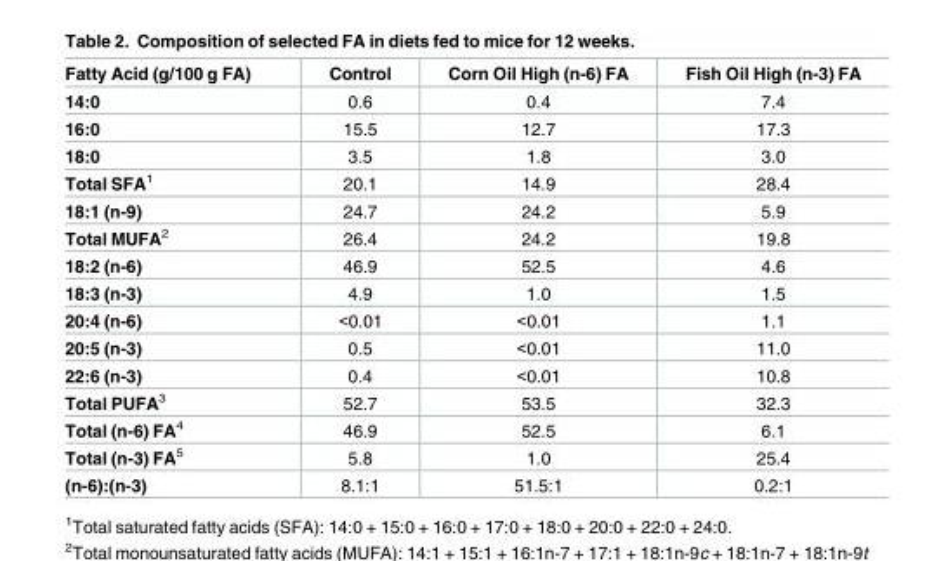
<table><thead><tr><td>Fatty Acid (g/100 g FA)</td><td>Control</td><td>Corn Oil High (n-6) FA</td><td>Fish Oil High (n-3) FA</td></tr></thead><tbody><tr><td>14:0</td><td>0.6</td><td>0.4</td><td>7.4</td></tr><tr><td>16:0</td><td>15.5</td><td>12.7</td><td>17.3</td></tr><tr><td>18:0</td><td>3.5</td><td>1.8</td><td>3.0</td></tr><tr><td>Total SFA<sup>1</sup></td><td>20.1</td><td>14.9</td><td>28.4</td></tr><tr><td>18:1 (n-9)</td><td>24.7</td><td>24.2</td><td>5.9</td></tr><tr><td>Total MUFA<sup>2</sup></td><td>26.4</td><td>24.2</td><td>19.8</td></tr><tr><td>18:2 (n-6)</td><td>46.9</td><td>52.5</td><td>4.6</td></tr><tr><td>18:3 (n-3)</td><td>4.9</td><td>1.0</td><td>1.5</td></tr><tr><td>20:4 (n-6)</td><td>&lt;0.01</td><td>&lt;0.01</td><td>1.1</td></tr><tr><td>20:5 (n-3)</td><td>0.5</td><td>&lt;0.01</td><td>11.0</td></tr><tr><td>22:6 (n-3)</td><td>0.4</td><td>&lt;0.01</td><td>10.8</td></tr><tr><td>Total PUFA<sup>3</sup></td><td>52.7</td><td>53.5</td><td>32.3</td></tr><tr><td>Total (n-6) FA<sup>4</sup></td><td>46.9</td><td>52.5</td><td>6.1</td></tr><tr><td>Total (n-3) FA<sup>5</sup></td><td>5.8</td><td>1.0</td><td>25.4</td></tr><tr><td>(n-6):(n-3)</td><td>8.1:1</td><td>51.5:1</td><td>0.2:1</td></tr></tbody></table>